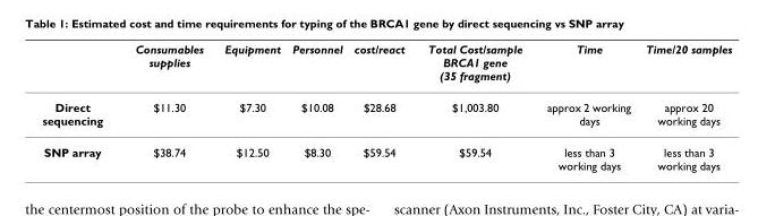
<table><thead><tr><td></td><td>Consumables supplies</td><td>Equipment</td><td>Personnel</td><td>cost/react</td><td>Total Cost/sample BRCA1 gene (35 fragment)</td><td>Time</td><td>Time/20 samples</td></tr></thead><tbody><tr><td>Direct sequencing</td><td>$11.30</td><td>$7.30</td><td>$10.08</td><td>$28.68</td><td>$1,003.80</td><td>approx 2 working days</td><td>approx 20 working days</td></tr><tr><td>SNP array</td><td>$38.74</td><td>$12.50</td><td>$8.30</td><td>$59.54</td><td>$59.54</td><td>less than 3 working days</td><td>less than 3 working days</td></tr></tbody></table>